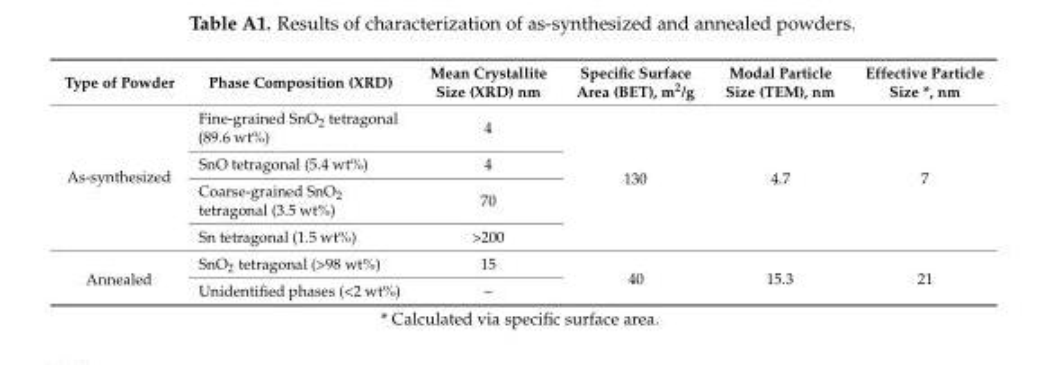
<table><thead><tr><td>Type of Powder</td><td>Phase Composition (XRD)</td><td>Mean Crystallite Size (XRD) nm</td><td>Specific Surface Area (BET), m<sup>2</sup>/g</td><td>Modal Particle Size (TEM), nm</td><td>Effective Particle Size *, nm</td></tr></thead><tbody><tr><td rowspan="4">As-synthesized</td><td>Fine-grained SnO<sub>2</sub> tetragonal (89.6 wt%)</td><td>4</td><td rowspan="4">130</td><td rowspan="4">4.7</td><td rowspan="4">7</td></tr><tr><td>SnO tetragonal (5.4 wt%)</td><td>4</td></tr><tr><td>Coarse-grained SnO<sub>2</sub> tetragonal (3.5 wt%)</td><td>70</td></tr><tr><td>Sn tetragonal (1.5 wt%)</td><td>&gt;200</td></tr><tr><td rowspan="2">Annealed</td><td>SnO<sub>2</sub> tetragonal (&gt;98 wt%)</td><td>15</td><td rowspan="2">40</td><td rowspan="2">15.3</td><td rowspan="2">21</td></tr><tr><td>Unidentified phases (&lt;2 wt%)</td><td>–</td></tr></tbody></table>